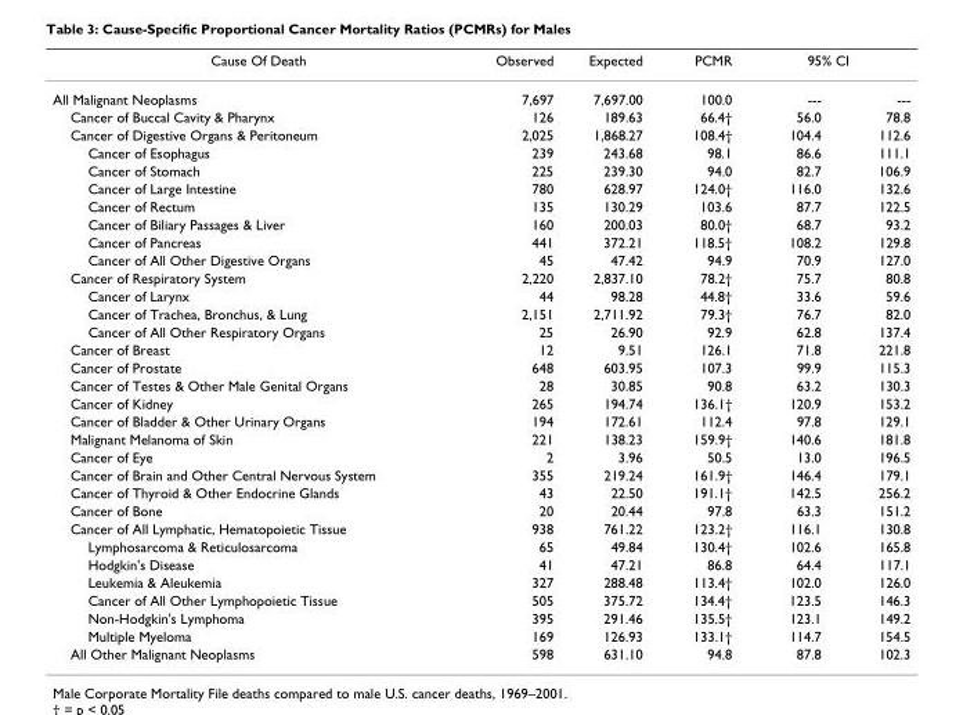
<table><thead><tr><td rowspan="2">Cause Of Death All Malignant Neoplasms</td><td rowspan="2">Observed 7,697</td><td rowspan="2">Expected 7,697.00</td><td rowspan="2">PCMR 100.0</td><td colspan="2">95% CI</td></tr><tr><td>---</td><td>---</td></tr></thead><tbody><tr><td>Cancer of Buccal Cavity &amp; Pharynx</td><td>126</td><td>189.63</td><td>66.4†</td><td>56.0</td><td>78.8</td></tr><tr><td>Cancer of Digestive Organs &amp; Peritoneum</td><td>2,025</td><td>1,868.27</td><td>108.4†</td><td>104.4</td><td>112.6</td></tr><tr><td>Cancer of Esophagus</td><td>239</td><td>243.68</td><td>98.1</td><td>86.6</td><td>111.1</td></tr><tr><td>Cancer of Stomach</td><td>225</td><td>239.30</td><td>94.0</td><td>82.7</td><td>106.9</td></tr><tr><td>Cancer of Large Intestine</td><td>780</td><td>628.97</td><td>124.0†</td><td>116.0</td><td>132.6</td></tr><tr><td>Cancer of Rectum</td><td>135</td><td>130.29</td><td>103.6</td><td>87.7</td><td>122.5</td></tr><tr><td>Cancer of Biliary Passages &amp; Liver</td><td>160</td><td>200.03</td><td>80.0†</td><td>68.7</td><td>93.2</td></tr><tr><td>Cancer of Pancreas</td><td>441</td><td>372.21</td><td>118.5†</td><td>108.2</td><td>129.8</td></tr><tr><td>Cancer of All Other Digestive Organs</td><td>45</td><td>47.42</td><td>94.9</td><td>70.9</td><td>127.0</td></tr><tr><td>Cancer of Respiratory System</td><td>2,220</td><td>2,837.10</td><td>78.2†</td><td>75.7</td><td>80.8</td></tr><tr><td>Cancer of Larynx</td><td>44</td><td>98.28</td><td>44.8†</td><td>33.6</td><td>59.6</td></tr><tr><td>Cancer of Trachea, Bronchus, &amp; Lung</td><td>2,151</td><td>2,711.92</td><td>79.3†</td><td>76.7</td><td>82.0</td></tr><tr><td>Cancer of All Other Respiratory Organs</td><td>25</td><td>26.90</td><td>92.9</td><td>62.8</td><td>137.4</td></tr><tr><td>Cancer of Breast</td><td>12</td><td>9.51</td><td>126.1</td><td>71.8</td><td>221.8</td></tr><tr><td>Cancer of Prostate</td><td>648</td><td>603.95</td><td>107.3</td><td>99.9</td><td>115.3</td></tr><tr><td>Cancer of Testes &amp; Other Male Genital Organs</td><td>28</td><td>30.85</td><td>90.8</td><td>63.2</td><td>130.3</td></tr><tr><td>Cancer of Kidney</td><td>265</td><td>194.74</td><td>136.1†</td><td>120.9</td><td>153.2</td></tr><tr><td>Cancer of Bladder &amp; Other Urinary Organs</td><td>194</td><td>172.61</td><td>112.4</td><td>97.8</td><td>129.1</td></tr><tr><td>Malignant Melanoma of Skin</td><td>221</td><td>138.23</td><td>159.9†</td><td>140.6</td><td>181.8</td></tr><tr><td>Cancer of Eye</td><td>2</td><td>3.96</td><td>50.5</td><td>13.0</td><td>196.5</td></tr><tr><td>Cancer of Brain and Other Central Nervous System</td><td>355</td><td>219.24</td><td>161.9†</td><td>146.4</td><td>179.1</td></tr><tr><td>Cancer of Thyroid &amp; Other Endocrine Glands</td><td>43</td><td>22.50</td><td>191.1†</td><td>142.5</td><td>256.2</td></tr><tr><td>Cancer of Bone</td><td>20</td><td>20.44</td><td>97.8</td><td>63.3</td><td>151.2</td></tr><tr><td>Cancer of All Lymphatic, Hematopoietic Tissue</td><td>938</td><td>761.22</td><td>123.2†</td><td>116.1</td><td>130.8</td></tr><tr><td>Lymphosarcoma &amp; Reticulosarcoma</td><td>65</td><td>49.84</td><td>130.4†</td><td>102.6</td><td>165.8</td></tr><tr><td>Hodgkin&#x27;s Disease</td><td>41</td><td>47.21</td><td>86.8</td><td>64.4</td><td>117.1</td></tr><tr><td>Leukemia &amp; Aleukemia</td><td>327</td><td>288.48</td><td>113.4†</td><td>102.0</td><td>126.0</td></tr><tr><td>Cancer of All Other Lymphopoietic Tissue</td><td>505</td><td>375.72</td><td>134.4†</td><td>123.5</td><td>146.3</td></tr><tr><td>Non-Hodgkin&#x27;s Lymphoma</td><td>395</td><td>291.46</td><td>135.5†</td><td>123.1</td><td>149.2</td></tr><tr><td>Multiple Myeloma</td><td>169</td><td>126.93</td><td>133.1†</td><td>114.7</td><td>154.5</td></tr><tr><td>All Other Malignant Neoplasms</td><td>598</td><td>631.10</td><td>94.8</td><td>87.8</td><td>102.3</td></tr></tbody></table>